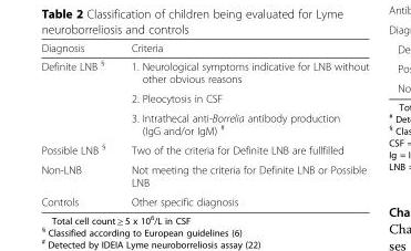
<table><thead><tr><td>Diagnosis</td><td>Criteria</td></tr></thead><tbody><tr><td rowspan="3">Definite LNB <sup>§</sup></td><td>1. Neurological symptoms indicative for LNB without other obvious reasons</td></tr><tr><td>2. Pleocytosis in CSF</td></tr><tr><td>3. Intrathecal anti-Borrelia antibody production (IgG and/or IgM) <sup>#</sup></td></tr><tr><td>Possible LNB <sup>§</sup></td><td>Two of the criteria for Definite LNB are fullfilled</td></tr><tr><td>Non-LNB</td><td>Not meeting the criteria for Definite LNB or Possible LNB</td></tr><tr><td>Controls</td><td>Other specific diagnosis</td></tr></tbody></table>